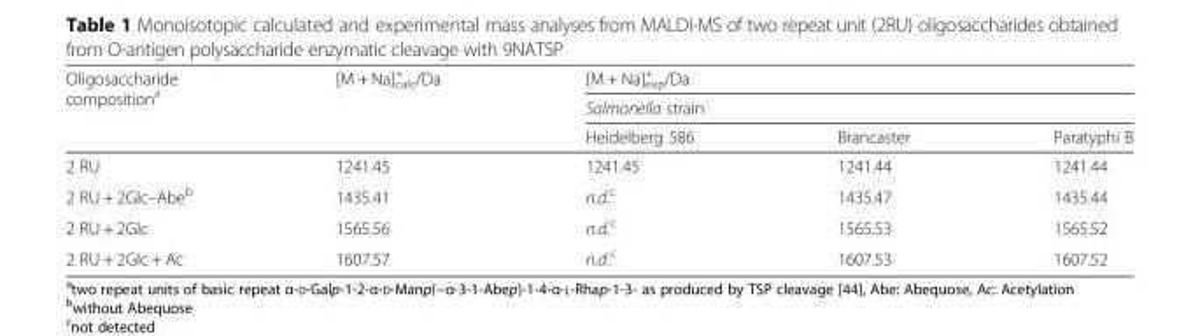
<table><thead><tr><td rowspan="3">Oligosaccharide composition<sup>a</sup></td><td rowspan="3">[M + Na]<sup>+</sup> <sub>calc</sub>/Da</td><td rowspan="2" colspan="3">[M + Na]<sup>+</sup> <sub>exp</sub>/Da Salmonella strain</td></tr><tr></tr><tr><td>Heidelberg 586</td><td>Brancaster</td><td>Paratyphi B</td></tr></thead><tbody><tr><td>2 RU</td><td>1241.45</td><td>1241.45</td><td>1241.44</td><td>1241.44</td></tr><tr><td>2 RU + 2Glc–Abe<sup>b</sup></td><td>1435.41</td><td>n.d.<sup>c</sup></td><td>1435.47</td><td>1435.44</td></tr><tr><td>2 RU + 2Glc</td><td>1565.56</td><td>n.d.<sup>c</sup></td><td>1565.53</td><td>1565.52</td></tr><tr><td>2 RU + 2Glc + Ac</td><td>1607.57</td><td>n.d.<sup>c</sup></td><td>1607.53</td><td>1607.52</td></tr></tbody></table>